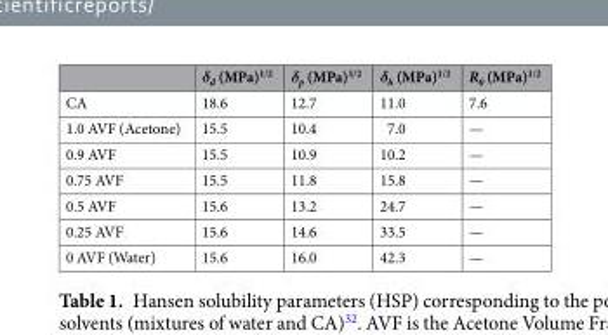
<table><thead><tr><td></td><td>δ<sub>d</sub> (MPa)<sup>1/2</sup></td><td>δ<sub>p</sub> (MPa)<sup>1/2</sup></td><td>δ<sub>h</sub> (MPa)<sup>1/2</sup></td><td>R<sub>0</sub> (MPa)<sup>1/2</sup></td></tr></thead><tbody><tr><td>CA</td><td>18.6</td><td>12.7</td><td>11.0</td><td>7.6</td></tr><tr><td>1.0 AVF (Acetone)</td><td>15.5</td><td>10.4</td><td>7.0</td><td>—</td></tr><tr><td>0.9 AVF</td><td>15.5</td><td>10.9</td><td>10.2</td><td>—</td></tr><tr><td>0.75 AVF</td><td>15.5</td><td>11.8</td><td>15.8</td><td>—</td></tr><tr><td>0.5 AVF</td><td>15.6</td><td>13.2</td><td>24.7</td><td>—</td></tr><tr><td>0.25 AVF</td><td>15.6</td><td>14.6</td><td>33.5</td><td>—</td></tr><tr><td>0 AVF (Water)</td><td>15.6</td><td>16.0</td><td>42.3</td><td>—</td></tr></tbody></table>